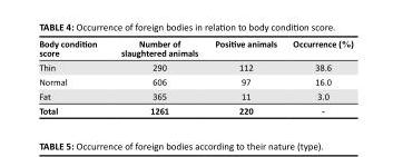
<table><thead><tr><td>Body condition score</td><td>Number of slaughtered animals</td><td>Positive animals</td><td>Occurrence (%)</td></tr></thead><tbody><tr><td>Thin</td><td>290</td><td>112</td><td>38.6</td></tr><tr><td>Normal</td><td>606</td><td>97</td><td>16.0</td></tr><tr><td>Fat</td><td>365</td><td>11</td><td>3.0</td></tr><tr><td>Total</td><td>1261</td><td>220</td><td>-</td></tr></tbody></table>